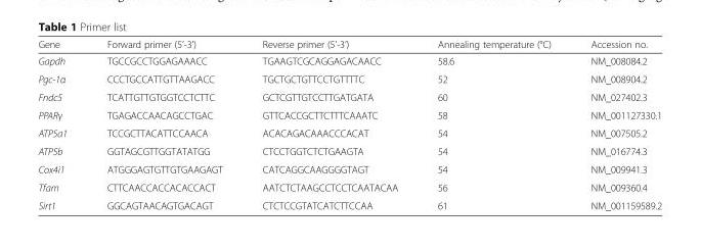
<table><thead><tr><td>Gene</td><td>Forward primer (5’-3’)</td><td>Reverse primer (5’-3’)</td><td>Annealing temperature (°C)</td><td>Accession no.</td></tr></thead><tbody><tr><td>Gapdh</td><td>TGCCGCCTGGAGAAACC</td><td>TGAAGTCGCAGGAGACAACC</td><td>58.6</td><td>NM_008084.2</td></tr><tr><td>Pgc-1α</td><td>CCCTGCCATTGTTAAGACC</td><td>TGCTGCTGTTCCTGTTTTC</td><td>52</td><td>NM_008904.2</td></tr><tr><td>Fndc5</td><td>TCATTGTTGTGGTCCTCTTC</td><td>GCTCGTTGTCCTTGATGATA</td><td>60</td><td>NM_027402.3</td></tr><tr><td>PPARγ</td><td>TGAGACCAACAGCCTGAC</td><td>GTTCACCGCTTCTTTCAAATC</td><td>58</td><td>NM_001127330.1</td></tr><tr><td>ATP5a1</td><td>TCCGCTTACATTCCAACA</td><td>ACACAGACAAACCCACAT</td><td>54</td><td>NM_007505.2</td></tr><tr><td>ATP5b</td><td>GGTAGCGTTGGTATATGG</td><td>CTCCTGGTCTCTGAAGTA</td><td>54</td><td>NM_016774.3</td></tr><tr><td>Cox4i1</td><td>ATGGGAGTGTTGTGAAGAGT</td><td>CATCAGGCAAGGGGTAGT</td><td>54</td><td>NM_009941.3</td></tr><tr><td>Tfam</td><td>CTTCAACCACCACACCACT</td><td>AATCTCTAAGCCTCCTCAATACAA</td><td>56</td><td>NM_009360.4</td></tr><tr><td>Sirt1</td><td>GGCAGTAACAGTGACAGT</td><td>CTCTCCGTATCATCTTCCAA</td><td>61</td><td>NM_001159589.2</td></tr></tbody></table>